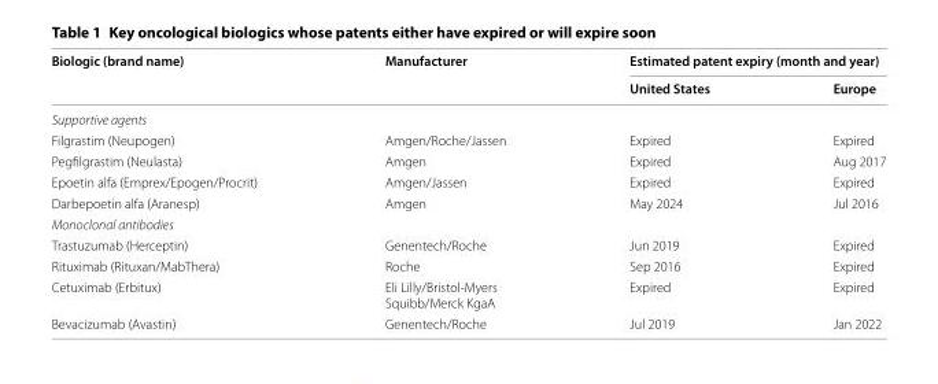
<table><thead><tr><td rowspan="2">Biologic (brand name)</td><td rowspan="2">Manufacturer</td><td colspan="2">Estimated patent expiry (month and year)</td></tr><tr><td>United States</td><td>Europe</td></tr></thead><tbody><tr><td colspan="4">Supportive agents</td></tr><tr><td>Filgrastim (Neupogen)</td><td>Amgen/Roche/Jassen</td><td>Expired</td><td>Expired</td></tr><tr><td>Pegfilgrastim (Neulasta)</td><td>Amgen</td><td>Expired</td><td>Aug 2017</td></tr><tr><td>Epoetin alfa (Emprex/Epogen/Procrit)</td><td>Amgen/Jassen</td><td>Expired</td><td>Expired</td></tr><tr><td>Darbepoetin alfa (Aranesp)</td><td>Amgen</td><td>May 2024</td><td>Jul 2016</td></tr><tr><td colspan="4">Monoclonal antibodies</td></tr><tr><td>Trastuzumab (Herceptin)</td><td>Genentech/Roche</td><td>Jun 2019</td><td>Expired</td></tr><tr><td>Rituximab (Rituxan/MabThera)</td><td>Roche</td><td>Sep 2016</td><td>Expired</td></tr><tr><td>Cetuximab (Erbitux)</td><td>Eli Lilly/Bristol-Myers Squibb/Merck KgaA</td><td>Expired</td><td>Expired</td></tr><tr><td>Bevacizumab (Avastin)</td><td>Genentech/Roche</td><td>Jul 2019</td><td>Jan 2022</td></tr></tbody></table>